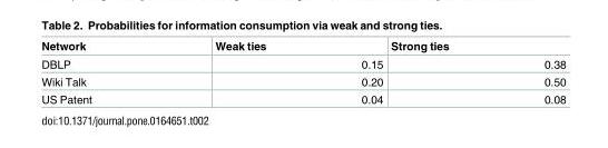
<table><thead><tr><td>Network</td><td>Weak ties</td><td>Strong ties</td></tr></thead><tbody><tr><td>DBLP</td><td>0.15</td><td>0.38</td></tr><tr><td>Wiki Talk</td><td>0.20</td><td>0.50</td></tr><tr><td>US Patent</td><td>0.04</td><td>0.08</td></tr></tbody></table>